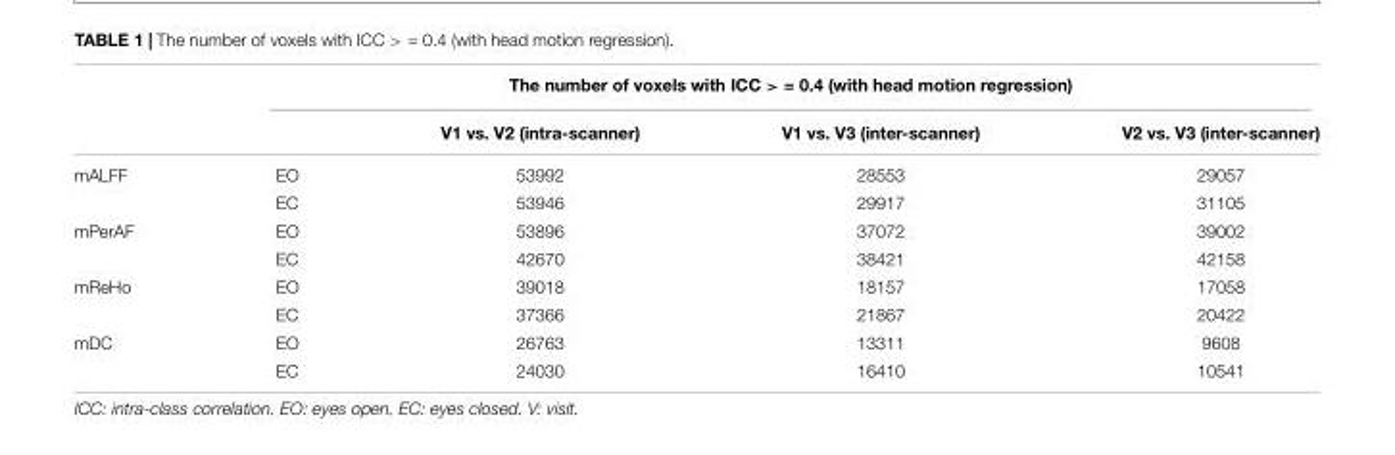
<table><thead><tr><td rowspan="2"></td><td colspan="4">The number of voxels with ICC &gt; = 0.4 (with head motion regression)</td></tr><tr><td></td><td>V1 vs. V2 (intra-scanner)</td><td>V1 vs. V3 (inter-scanner)</td><td>V2 vs. V3 (inter-scanner)</td></tr></thead><tbody><tr><td rowspan="2">mALFF</td><td>EO</td><td>53992</td><td>28553</td><td>29057</td></tr><tr><td>EC</td><td>53946</td><td>29917</td><td>31105</td></tr><tr><td rowspan="2">mPerAF</td><td>EO</td><td>53896</td><td>37072</td><td>39002</td></tr><tr><td>EC</td><td>42670</td><td>38421</td><td>42158</td></tr><tr><td rowspan="2">mReHo</td><td>EO</td><td>39018</td><td>18157</td><td>17058</td></tr><tr><td>EC</td><td>37366</td><td>21867</td><td>20422</td></tr><tr><td rowspan="2">mDC</td><td>EO</td><td>26763</td><td>13311</td><td>9608</td></tr><tr><td>EC</td><td>24030</td><td>16410</td><td>10541</td></tr></tbody></table>